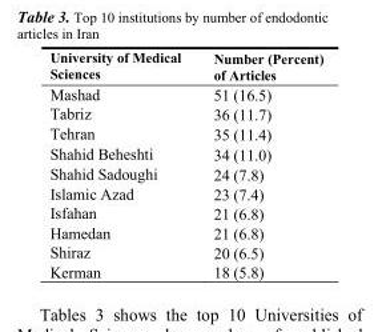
<table><thead><tr><td>University of Medical Sciences</td><td>Number (Percent) of Articles</td></tr></thead><tbody><tr><td>Mashad</td><td>51 (16.5)</td></tr><tr><td>Tabriz</td><td>36 (11.7)</td></tr><tr><td>Tehran</td><td>35 (11.4)</td></tr><tr><td>Shahid Beheshti</td><td>34 (11.0)</td></tr><tr><td>Shahid Sadoughi</td><td>24 (7.8)</td></tr><tr><td>Islamic Azad</td><td>23 (7.4)</td></tr><tr><td>Isfahan</td><td>21 (6.8)</td></tr><tr><td>Hamedan</td><td>21 (6.8)</td></tr><tr><td>Shiraz</td><td>20 (6.5)</td></tr><tr><td>Kerman</td><td>18 (5.8)</td></tr></tbody></table>